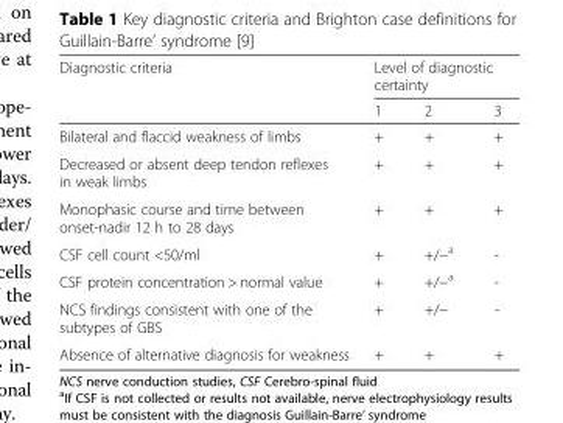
<table><thead><tr><td rowspan="2">Diagnostic criteria</td><td colspan="3">Level of diagnostic certainty</td></tr><tr><td>1</td><td>2</td><td>3</td></tr></thead><tbody><tr><td>Bilateral and flaccid weakness of limbs</td><td>+</td><td>+</td><td>+</td></tr><tr><td>Decreased or absent deep tendon reflexes in weak limbs</td><td>+</td><td>+</td><td>+</td></tr><tr><td>Monophasic course and time between onset-nadir 12 h to 28 days</td><td>+</td><td>+</td><td>+</td></tr><tr><td>CSF cell count &lt;50/ml</td><td>+</td><td>+/−<sup>a</sup></td><td>-</td></tr><tr><td>CSF protein concentration &gt; normal value</td><td>+</td><td>+/−<sup>a</sup></td><td>-</td></tr><tr><td>NCS findings consistent with one of the subtypes of GBS</td><td>+</td><td>+/−</td><td>-</td></tr><tr><td>Absence of alternative diagnosis for weakness</td><td>+</td><td>+</td><td>+</td></tr></tbody></table>